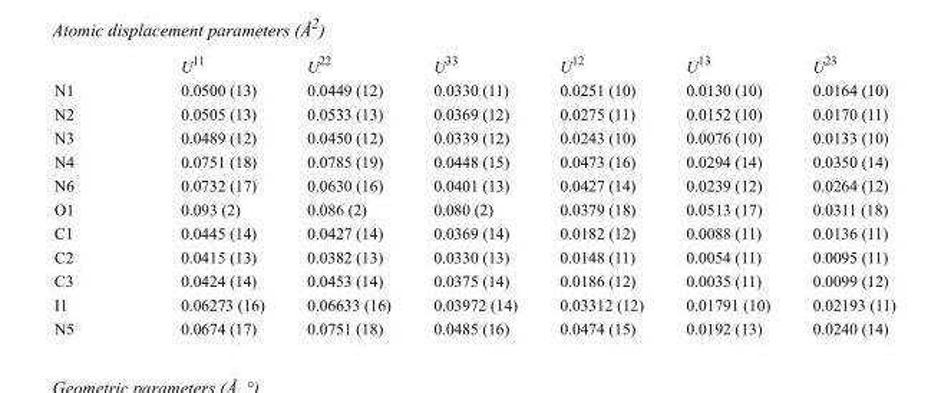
<table><thead><tr><td></td><td>U<sup>11</sup></td><td>U<sup>22</sup></td><td>U<sup>33</sup></td><td>U<sup>12</sup></td><td>U<sup>13</sup></td><td>U<sup>23</sup></td></tr></thead><tbody><tr><td>N1</td><td>0.0500 (13)</td><td>0.0449 (12)</td><td>0.0330 (11)</td><td>0.0251 (10)</td><td>0.0130 (10)</td><td>0.0164 (10)</td></tr><tr><td>N2</td><td>0.0505 (13)</td><td>0.0533 (13)</td><td>0.0369 (12)</td><td>0.0275 (11)</td><td>0.0152 (10)</td><td>0.0170 (11)</td></tr><tr><td>N3</td><td>0.0489 (12)</td><td>0.0450 (12)</td><td>0.0339 (12)</td><td>0.0243 (10)</td><td>0.0076 (10)</td><td>0.0133 (10)</td></tr><tr><td>N4</td><td>0.0751 (18)</td><td>0.0785 (19)</td><td>0.0448 (15)</td><td>0.0473 (16)</td><td>0.0294 (14)</td><td>0.0350 (14)</td></tr><tr><td>N6</td><td>0.0732 (17)</td><td>0.0630 (16)</td><td>0.0401 (13)</td><td>0.0427 (14)</td><td>0.0239 (12)</td><td>0.0264 (12)</td></tr><tr><td>O1</td><td>0.093 (2)</td><td>0.086 (2)</td><td>0.080 (2)</td><td>0.0379 (18)</td><td>0.0513 (17)</td><td>0.0311 (18)</td></tr><tr><td>C1</td><td>0.0445 (14)</td><td>0.0427 (14)</td><td>0.0369 (14)</td><td>0.0182 (12)</td><td>0.0088 (11)</td><td>0.0136 (11)</td></tr><tr><td>C2</td><td>0.0415 (13)</td><td>0.0382 (13)</td><td>0.0330 (13)</td><td>0.0148 (11)</td><td>0.0054 (11)</td><td>0.0095 (11)</td></tr><tr><td>C3</td><td>0.0424 (14)</td><td>0.0453 (14)</td><td>0.0375 (14)</td><td>0.0186 (12)</td><td>0.0035 (11)</td><td>0.0099 (12)</td></tr><tr><td>I1</td><td>0.06273 (16)</td><td>0.06633 (16)</td><td>0.03972 (14)</td><td>0.03312 (12)</td><td>0.01791 (10)</td><td>0.02193 (11)</td></tr><tr><td>N5</td><td>0.0674 (17)</td><td>0.0751 (18)</td><td>0.0485 (16)</td><td>0.0474 (15)</td><td>0.0192 (13)</td><td>0.0240 (14)</td></tr></tbody></table>